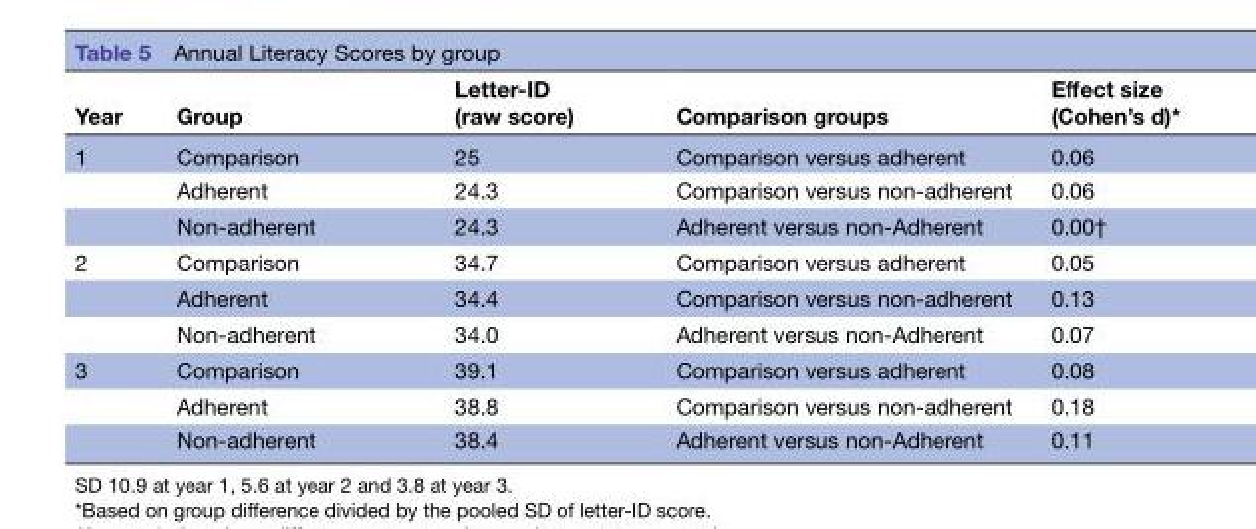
<table><thead><tr><td>Year</td><td>Group</td><td>Letter-ID (raw score)</td><td>Comparison groups</td><td>Effect size (Cohen’s d)*</td></tr></thead><tbody><tr><td rowspan="3">1</td><td>Comparison</td><td>25</td><td>Comparison versus adherent</td><td>0.06</td></tr><tr><td>Adherent</td><td>24.3</td><td>Comparison versus non-adherent</td><td>0.06</td></tr><tr><td>Non-adherent</td><td>24.3</td><td>Adherent versus non-Adherent</td><td>0.00†</td></tr><tr><td rowspan="3">2</td><td>Comparison</td><td>34.7</td><td>Comparison versus adherent</td><td>0.05</td></tr><tr><td>Adherent</td><td>34.4</td><td>Comparison versus non-adherent</td><td>0.13</td></tr><tr><td>Non-adherent</td><td>34.0</td><td>Adherent versus non-Adherent</td><td>0.07</td></tr><tr><td rowspan="3">3</td><td>Comparison</td><td>39.1</td><td>Comparison versus adherent</td><td>0.08</td></tr><tr><td>Adherent</td><td>38.8</td><td>Comparison versus non-adherent</td><td>0.18</td></tr><tr><td>Non-adherent</td><td>38.4</td><td>Adherent versus non-Adherent</td><td>0.11</td></tr></tbody></table>